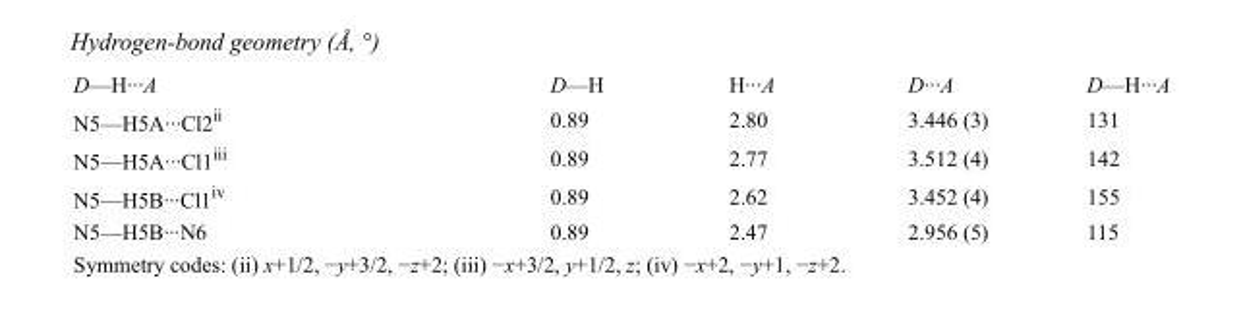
<table><tbody><tr><td>D—H···A</td><td>D—H</td><td>H···A</td><td>D···A</td><td>D—H···A</td></tr><tr><td>N5—H5A···Cl2<sup>ii</sup></td><td>0.89</td><td>2.80</td><td>3.446 (3)</td><td>131</td></tr><tr><td>N5—H5A···Cl1<sup>iii</sup></td><td>0.89</td><td>2.77</td><td>3.512 (4)</td><td>142</td></tr><tr><td>N5—H5B···Cl1<sup>iv</sup></td><td>0.89</td><td>2.62</td><td>3.452 (4)</td><td>155</td></tr><tr><td>N5—H5B···N6</td><td>0.89</td><td>2.47</td><td>2.956 (5)</td><td>115</td></tr></tbody></table>